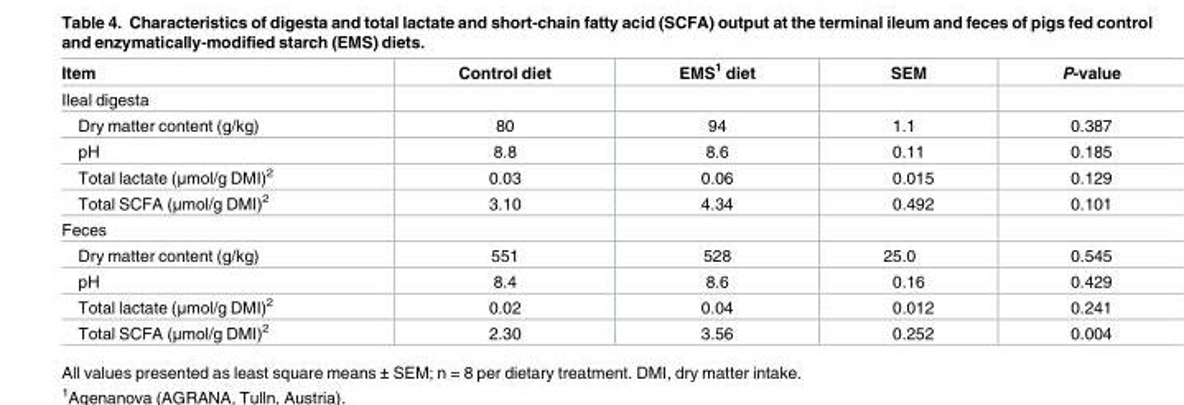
<table><thead><tr><td>Item</td><td>Control diet</td><td>EMS<sup>1</sup> diet</td><td>SEM</td><td>P-value</td></tr></thead><tbody><tr><td colspan="5">Ileal digesta</td></tr><tr><td>Dry matter content (g/kg)</td><td>80</td><td>94</td><td>1.1</td><td>0.387</td></tr><tr><td>pH</td><td>8.8</td><td>8.6</td><td>0.11</td><td>0.185</td></tr><tr><td>Total lactate (μmol/g DMI)<sup>2</sup></td><td>0.03</td><td>0.06</td><td>0.015</td><td>0.129</td></tr><tr><td>Total SCFA (μmol/g DMI)<sup>2</sup></td><td>3.10</td><td>4.34</td><td>0.492</td><td>0.101</td></tr><tr><td colspan="5">Feces</td></tr><tr><td>Dry matter content (g/kg)</td><td>551</td><td>528</td><td>25.0</td><td>0.545</td></tr><tr><td>pH</td><td>8.4</td><td>8.6</td><td>0.16</td><td>0.429</td></tr><tr><td>Total lactate (μmol/g DMI)<sup>2</sup></td><td>0.02</td><td>0.04</td><td>0.012</td><td>0.241</td></tr><tr><td>Total SCFA (μmol/g DMI)<sup>2</sup></td><td>2.30</td><td>3.56</td><td>0.252</td><td>0.004</td></tr></tbody></table>